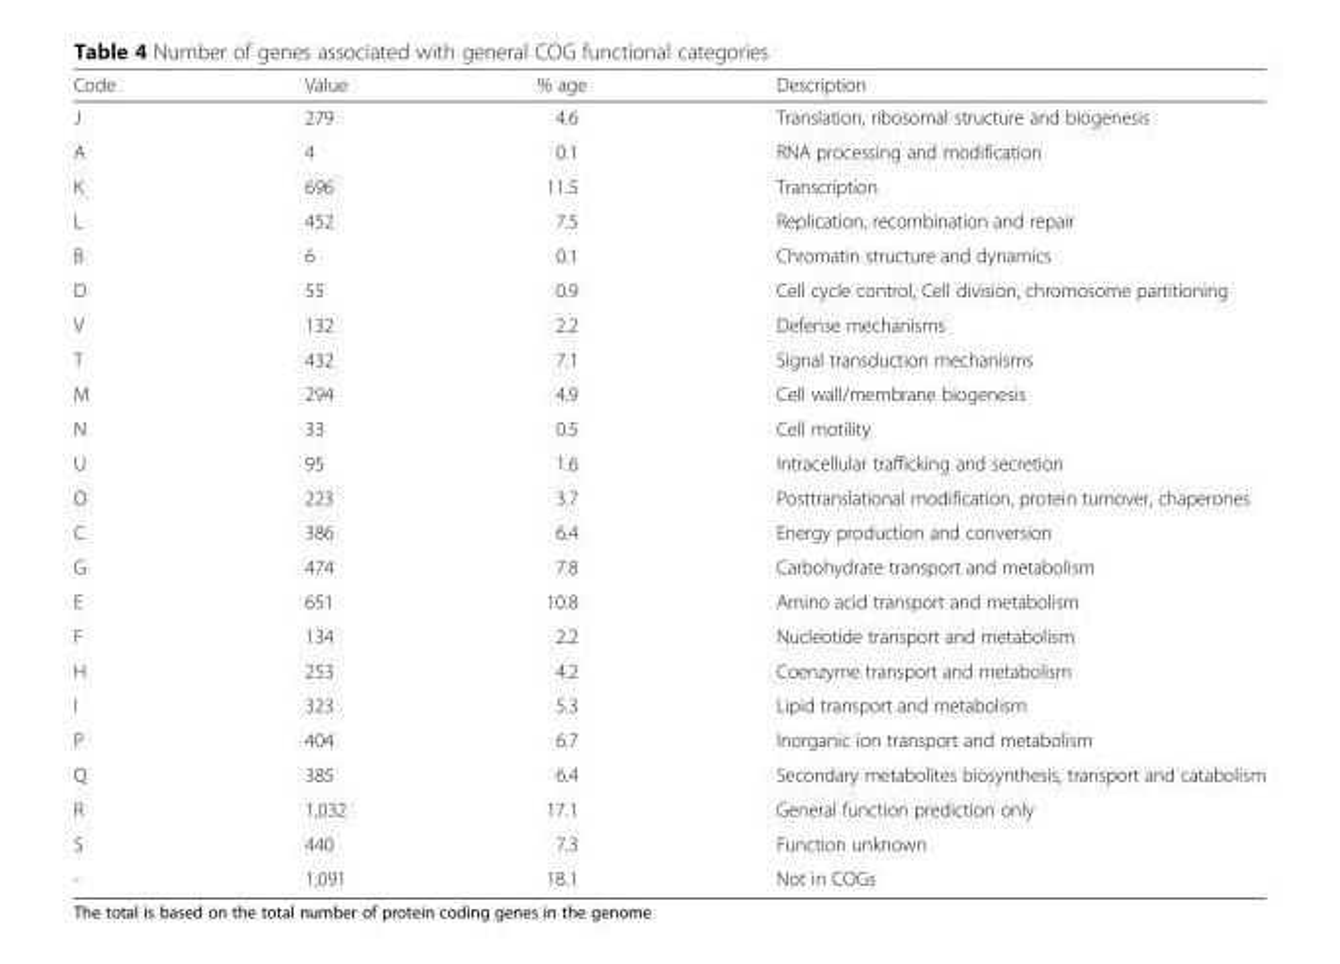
<table><thead><tr><td>Code</td><td>Value</td><td>% age</td><td>Description</td></tr></thead><tbody><tr><td>J</td><td>279</td><td>4.6</td><td>Translation, ribosomal structure and biogenesis</td></tr><tr><td>A</td><td>4</td><td>0.1</td><td>RNA processing and modification</td></tr><tr><td>K</td><td>696</td><td>11.5</td><td>Transcription</td></tr><tr><td>L</td><td>452</td><td>7.5</td><td>Replication, recombination and repair</td></tr><tr><td>B</td><td>6</td><td>0.1</td><td>Chromatin structure and dynamics</td></tr><tr><td>D</td><td>55</td><td>0.9</td><td>Cell cycle control, Cell division, chromosome partitioning</td></tr><tr><td>V</td><td>132</td><td>2.2</td><td>Defense mechanisms</td></tr><tr><td>T</td><td>432</td><td>7.1</td><td>Signal transduction mechanisms</td></tr><tr><td>M</td><td>294</td><td>4.9</td><td>Cell wall/membrane biogenesis</td></tr><tr><td>N</td><td>33</td><td>0.5</td><td>Cell motility</td></tr><tr><td>U</td><td>95</td><td>1.6</td><td>Intracellular trafficking and secretion</td></tr><tr><td>O</td><td>223</td><td>3.7</td><td>Posttranslational modification, protein turnover, chaperones</td></tr><tr><td>C</td><td>386</td><td>6.4</td><td>Energy production and conversion</td></tr><tr><td>G</td><td>474</td><td>7.8</td><td>Carbohydrate transport and metabolism</td></tr><tr><td>E</td><td>651</td><td>10.8</td><td>Amino acid transport and metabolism</td></tr><tr><td>F</td><td>134</td><td>2.2</td><td>Nucleotide transport and metabolism</td></tr><tr><td>H</td><td>253</td><td>4.2</td><td>Coenzyme transport and metabolism</td></tr><tr><td>I</td><td>323</td><td>5.3</td><td>Lipid transport and metabolism</td></tr><tr><td>P</td><td>404</td><td>6.7</td><td>Inorganic ion transport and metabolism</td></tr><tr><td>Q</td><td>385</td><td>6.4</td><td>Secondary metabolites biosynthesis, transport and catabolism</td></tr><tr><td>R</td><td>1,032</td><td>17.1</td><td>General function prediction only</td></tr><tr><td>S</td><td>440</td><td>7.3</td><td>Function unknown</td></tr><tr><td>-</td><td>1,091</td><td>18.1</td><td>Not in COGs</td></tr></tbody></table>